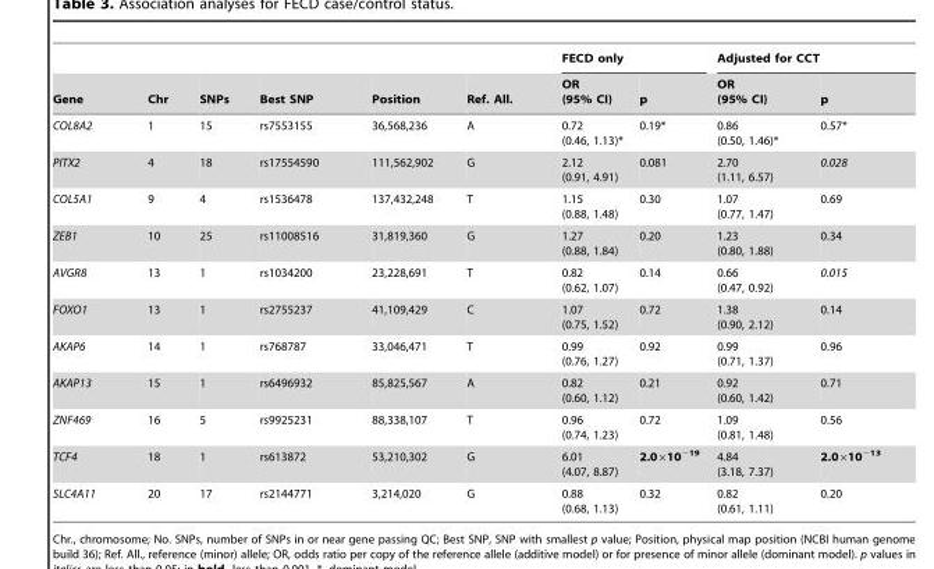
<table><thead><tr><td rowspan="2">Gene</td><td rowspan="2">Chr</td><td rowspan="2">SNPs</td><td rowspan="2">Best SNP</td><td rowspan="2">Position</td><td rowspan="2">Ref. All.</td><td colspan="2">FECD only</td><td colspan="2">Adjusted for CCT</td></tr><tr><td>OR (95% CI)</td><td>p</td><td>OR (95% CI)</td><td>p</td></tr></thead><tbody><tr><td>COL8A2</td><td>1</td><td>15</td><td>rs7553155</td><td>36,568,236</td><td>A</td><td>0.72 (0.46, 1.13)*</td><td>0.19*</td><td>0.86 (0.50, 1.46)*</td><td>0.57*</td></tr><tr><td>PITX2</td><td>4</td><td>18</td><td>rs17554590</td><td>111,562,902</td><td>G</td><td>2.12 (0.91, 4.91)</td><td>0.081</td><td>2.70 (1.11, 6.57)</td><td>0.028</td></tr><tr><td>COL5A1</td><td>9</td><td>4</td><td>rs1536478</td><td>137,432,248</td><td>T</td><td>1.15 (0.88, 1.48)</td><td>0.30</td><td>1.07 (0.77, 1.47)</td><td>0.69</td></tr><tr><td>ZEB1</td><td>10</td><td>25</td><td>rs11008516</td><td>31,819,360</td><td>G</td><td>1.27 (0.88, 1.84)</td><td>0.20</td><td>1.23 (0.80, 1.88)</td><td>0.34</td></tr><tr><td>AVGR8</td><td>13</td><td>1</td><td>rs1034200</td><td>23,228,691</td><td>T</td><td>0.82 (0.62, 1.07)</td><td>0.14</td><td>0.66 (0.47, 0.92)</td><td>0.015</td></tr><tr><td>FOXO1</td><td>13</td><td>1</td><td>rs2755237</td><td>41,109,429</td><td>C</td><td>1.07 (0.75, 1.52)</td><td>0.72</td><td>1.38 (0.90, 2.12)</td><td>0.14</td></tr><tr><td>AKAP6</td><td>14</td><td>1</td><td>rs768787</td><td>33,046,471</td><td>T</td><td>0.99 (0.76, 1.27)</td><td>0.92</td><td>0.99 (0.71, 1.37)</td><td>0.96</td></tr><tr><td>AKAP13</td><td>15</td><td>1</td><td>rs6496932</td><td>85,825,567</td><td>A</td><td>0.82 (0.60, 1.12)</td><td>0.21</td><td>0.92 (0.60, 1.42)</td><td>0.71</td></tr><tr><td>ZNF469</td><td>16</td><td>5</td><td>rs9925231</td><td>88,338,107</td><td>T</td><td>0.96 (0.74, 1.23)</td><td>0.72</td><td>1.09 (0.81, 1.48)</td><td>0.56</td></tr><tr><td>TCF4</td><td>18</td><td>1</td><td>rs613872</td><td>53,210,302</td><td>G</td><td>6.01 (4.07, 8.87)</td><td>2.0×10<sup>−19</sup></td><td>4.84 (3.18, 7.37)</td><td>2.0×10<sup>−13</sup></td></tr><tr><td>SLC4A11</td><td>20</td><td>17</td><td>rs2144771</td><td>3,214,020</td><td>G</td><td>0.88 (0.68, 1.13)</td><td>0.32</td><td>0.82 (0.61, 1.11)</td><td>0.20</td></tr></tbody></table>